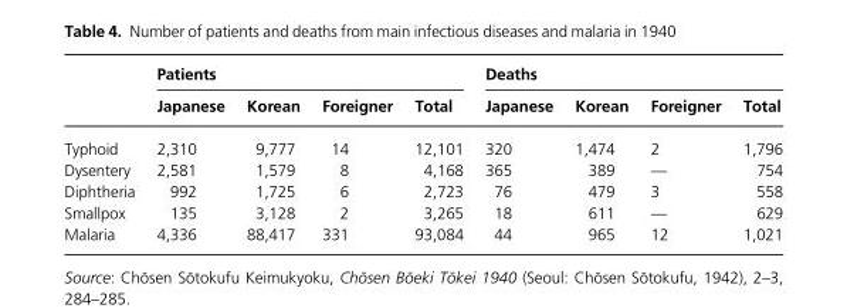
<table><thead><tr><td rowspan="2"></td><td colspan="4">Patients</td><td colspan="4">Deaths</td></tr><tr><td>Japanese</td><td>Korean</td><td>Foreigner</td><td>Total</td><td>Japanese</td><td>Korean</td><td>Foreigner</td><td>Total</td></tr></thead><tbody><tr><td>Typhoid</td><td>2,310</td><td>9,777</td><td>14</td><td>12,101</td><td>320</td><td>1,474</td><td>2</td><td>1,796</td></tr><tr><td>Dysentery</td><td>2,581</td><td>1,579</td><td>8</td><td>4,168</td><td>365</td><td>389</td><td>—</td><td>754</td></tr><tr><td>Diphtheria</td><td>992</td><td>1,725</td><td>6</td><td>2,723</td><td>76</td><td>479</td><td>3</td><td>558</td></tr><tr><td>Smallpox</td><td>135</td><td>3,128</td><td>2</td><td>3,265</td><td>18</td><td>611</td><td>—</td><td>629</td></tr><tr><td>Malaria</td><td>4,336</td><td>88,417</td><td>331</td><td>93,084</td><td>44</td><td>965</td><td>12</td><td>1,021</td></tr></tbody></table>